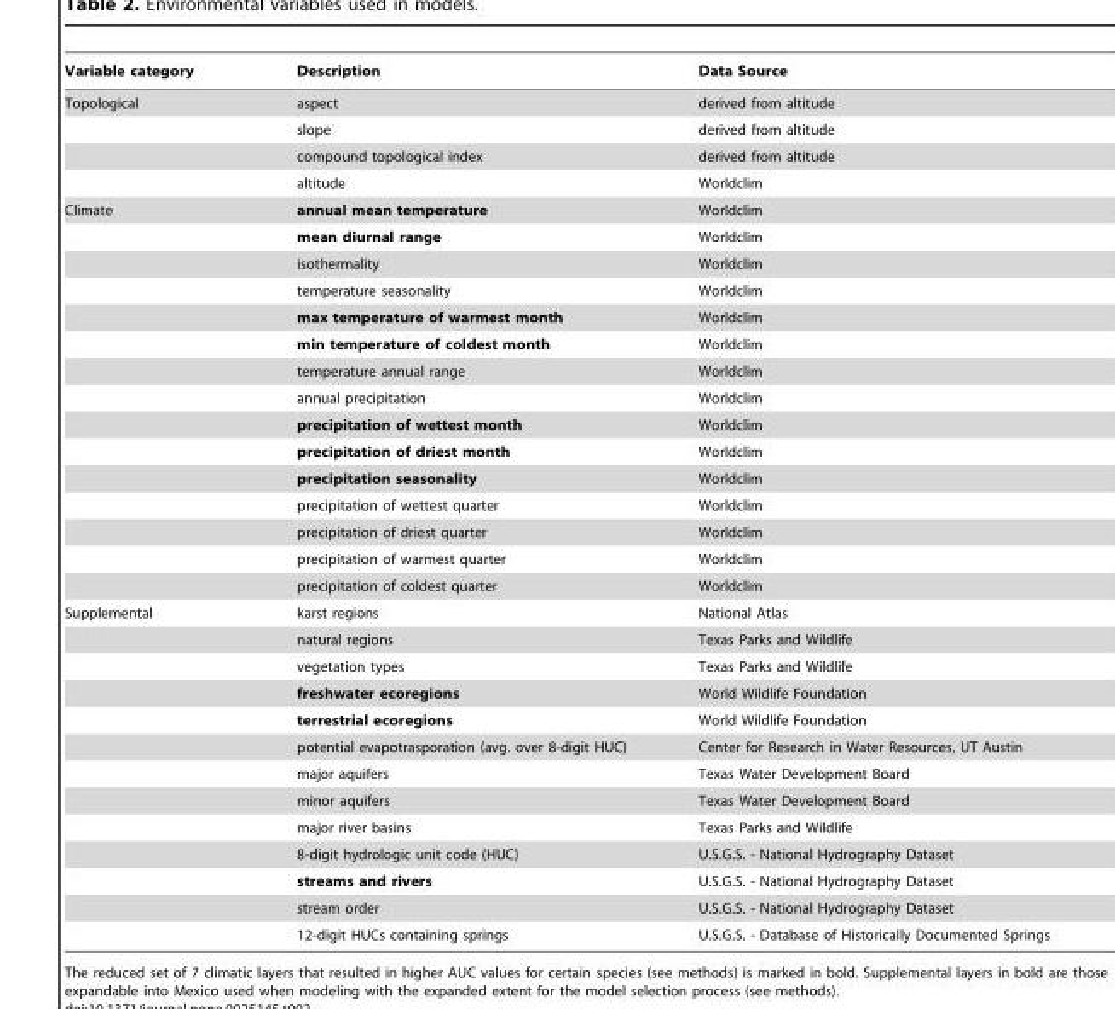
<table><thead><tr><td>Variable category</td><td>Description</td><td>Data Source</td></tr></thead><tbody><tr><td rowspan="4">Topological</td><td>aspect</td><td>derived from altitude</td></tr><tr><td>slope</td><td>derived from altitude</td></tr><tr><td>compound topological index</td><td>derived from altitude</td></tr><tr><td>altitude</td><td>Worldclim</td></tr><tr><td rowspan="15">Climate</td><td>annual mean temperature</td><td>Worldclim</td></tr><tr><td>mean diurnal range</td><td>Worldclim</td></tr><tr><td>isothermality</td><td>Worldclim</td></tr><tr><td>temperature seasonality</td><td>Worldclim</td></tr><tr><td>max temperature of warmest month</td><td>Worldclim</td></tr><tr><td>min temperature of coldest month</td><td>Worldclim</td></tr><tr><td>temperature annual range</td><td>Worldclim</td></tr><tr><td>annual precipitation</td><td>Worldclim</td></tr><tr><td>precipitation of wettest month</td><td>Worldclim</td></tr><tr><td>precipitation of driest month</td><td>Worldclim</td></tr><tr><td>precipitation seasonality</td><td>Worldclim</td></tr><tr><td>precipitation of wettest quarter</td><td>Worldclim</td></tr><tr><td>precipitation of driest quarter</td><td>Worldclim</td></tr><tr><td>precipitation of warmest quarter</td><td>Worldclim</td></tr><tr><td>precipitation of coldest quarter</td><td>Worldclim</td></tr><tr><td rowspan="13">Supplemental</td><td>karst regions</td><td>National Atlas</td></tr><tr><td>natural regions</td><td>Texas Parks and Wildlife</td></tr><tr><td>vegetation types</td><td>Texas Parks and Wildlife</td></tr><tr><td>freshwater ecoregions</td><td>World Wildlife Foundation</td></tr><tr><td>terrestrial ecoregions</td><td>World Wildlife Foundation</td></tr><tr><td>potential evapotrasporation (avg. over 8-digit HUC)</td><td>Center for Research in Water Resources, UT Austin</td></tr><tr><td>major aquifers</td><td>Texas Water Development Board</td></tr><tr><td>minor aquifers</td><td>Texas Water Development Board</td></tr><tr><td>major river basins</td><td>Texas Parks and Wildlife</td></tr><tr><td>8-digit hydrologic unit code (HUC)</td><td>U.S.G.S. - National Hydrography Dataset</td></tr><tr><td>streams and rivers</td><td>U.S.G.S. - National Hydrography Dataset</td></tr><tr><td>stream order</td><td>U.S.G.S. - National Hydrography Dataset</td></tr><tr><td>12-digit HUCs containing springs</td><td>U.S.G.S. - Database of Historically Documented Springs</td></tr></tbody></table>